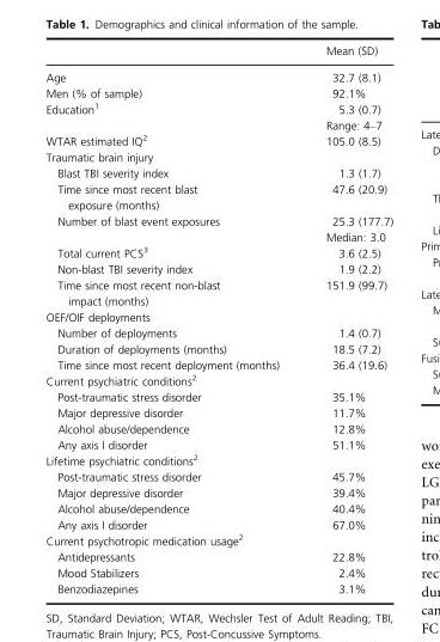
<table><thead><tr><td></td><td>Mean (SD)</td></tr></thead><tbody><tr><td>Age</td><td>32.7 (8.1)</td></tr><tr><td>Men (% of sample)</td><td>92.1%</td></tr><tr><td rowspan="2">Education1</td><td>5.3 (0.7)</td></tr><tr><td>Range: 4–7</td></tr><tr><td>WTAR estimated IQ2</td><td>105.0 (8.5)</td></tr><tr><td colspan="2">Traumatic brain injury</td></tr><tr><td>Blast TBI severity index</td><td>1.3 (1.7)</td></tr><tr><td>Time since most recent blast exposure (months)</td><td>47.6 (20.9)</td></tr><tr><td rowspan="2">Number of blast event exposures</td><td>25.3 (177.7)</td></tr><tr><td>Median: 3.0</td></tr><tr><td>Total current PCS3</td><td>3.6 (2.5)</td></tr><tr><td>Non-blast TBI severity index</td><td>1.9 (2.2)</td></tr><tr><td>Time since most recent non-blast impact (months)</td><td>151.9 (99.7)</td></tr><tr><td colspan="2">OEF/OIF deployments</td></tr><tr><td>Number of deployments</td><td>1.4 (0.7)</td></tr><tr><td>Duration of deployments (months)</td><td>18.5 (7.2)</td></tr><tr><td>Time since most recent deployment (months)</td><td>36.4 (19.6)</td></tr><tr><td colspan="2">Current psychiatric conditions2</td></tr><tr><td>Post-traumatic stress disorder</td><td>35.1%</td></tr><tr><td>Major depressive disorder</td><td>11.7%</td></tr><tr><td>Alcohol abuse/dependence</td><td>12.8%</td></tr><tr><td>Any axis I disorder</td><td>51.1%</td></tr><tr><td colspan="2">Lifetime psychiatric conditions2</td></tr><tr><td>Post-traumatic stress disorder</td><td>45.7%</td></tr><tr><td>Major depressive disorder</td><td>39.4%</td></tr><tr><td>Alcohol abuse/dependence</td><td>40.4%</td></tr><tr><td>Any axis I disorder</td><td>67.0%</td></tr><tr><td colspan="2">Current psychotropic medication usage2</td></tr><tr><td>Antidepressants</td><td>22.8%</td></tr><tr><td>Mood Stabilizers</td><td>2.4%</td></tr><tr><td>Benzodiazepines</td><td>3.1%</td></tr></tbody></table>